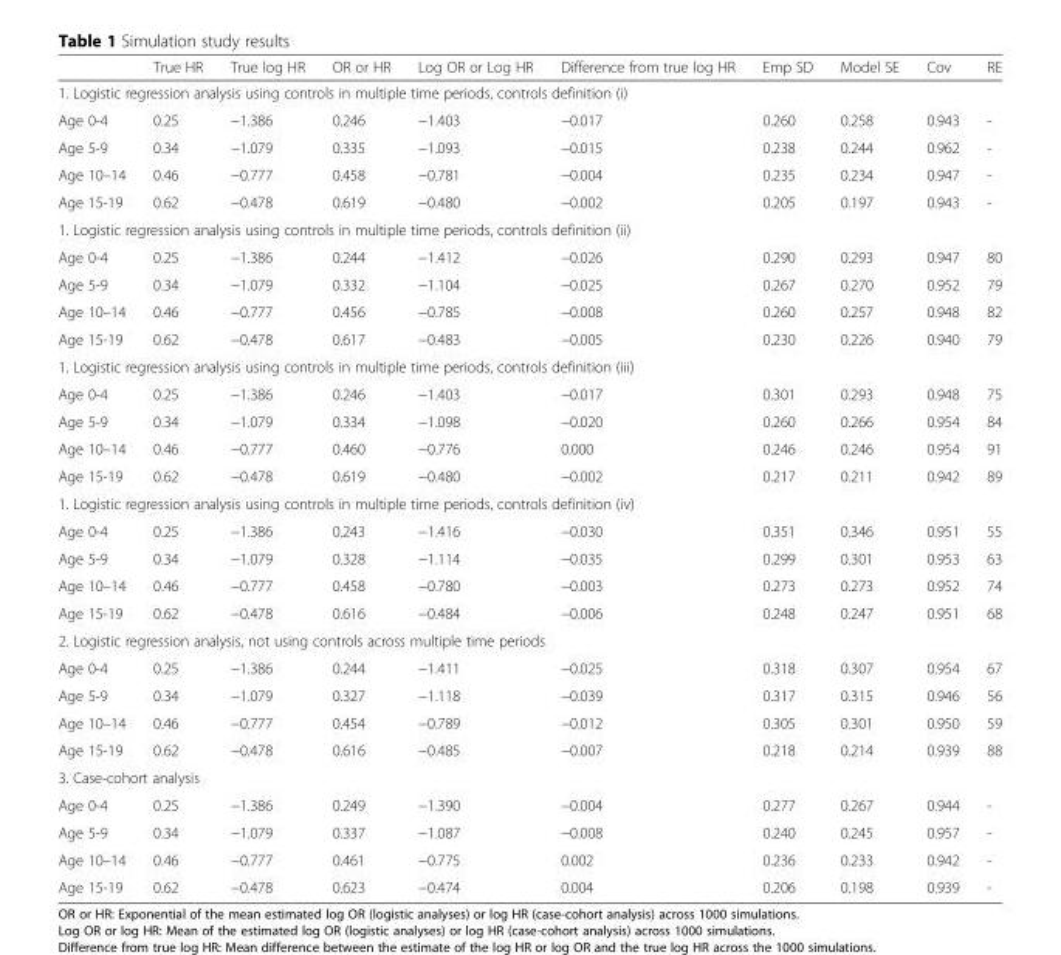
<table><thead><tr><td></td><td>True HR</td><td>True log HR</td><td>OR or HR</td><td>Log OR or Log HR</td><td>Difference from true log HR</td><td>Emp SD</td><td>Model SE</td><td>Cov</td><td>RE</td></tr></thead><tbody><tr><td colspan="10">1. Logistic regression analysis using controls in multiple time periods, controls definition (i)</td></tr><tr><td>Age 0-4</td><td>0.25</td><td>−1.386</td><td>0.246</td><td>−1.403</td><td>−0.017</td><td>0.260</td><td>0.258</td><td>0.943</td><td>-</td></tr><tr><td>Age 5-9</td><td>0.34</td><td>−1.079</td><td>0.335</td><td>−1.093</td><td>−0.015</td><td>0.238</td><td>0.244</td><td>0.962</td><td>-</td></tr><tr><td>Age 10–14</td><td>0.46</td><td>−0.777</td><td>0.458</td><td>−0.781</td><td>−0.004</td><td>0.235</td><td>0.234</td><td>0.947</td><td>-</td></tr><tr><td>Age 15-19</td><td>0.62</td><td>−0.478</td><td>0.619</td><td>−0.480</td><td>−0.002</td><td>0.205</td><td>0.197</td><td>0.943</td><td>-</td></tr><tr><td colspan="10">1. Logistic regression analysis using controls in multiple time periods, controls definition (ii)</td></tr><tr><td>Age 0-4</td><td>0.25</td><td>−1.386</td><td>0.244</td><td>−1.412</td><td>−0.026</td><td>0.290</td><td>0.293</td><td>0.947</td><td>80</td></tr><tr><td>Age 5-9</td><td>0.34</td><td>−1.079</td><td>0.332</td><td>−1.104</td><td>−0.025</td><td>0.267</td><td>0.270</td><td>0.952</td><td>79</td></tr><tr><td>Age 10–14</td><td>0.46</td><td>−0.777</td><td>0.456</td><td>−0.785</td><td>−0.008</td><td>0.260</td><td>0.257</td><td>0.948</td><td>82</td></tr><tr><td>Age 15-19</td><td>0.62</td><td>−0.478</td><td>0.617</td><td>−0.483</td><td>−0.005</td><td>0.230</td><td>0.226</td><td>0.940</td><td>79</td></tr><tr><td colspan="10">1. Logistic regression analysis using controls in multiple time periods, controls definition (iii)</td></tr><tr><td>Age 0-4</td><td>0.25</td><td>−1.386</td><td>0.246</td><td>−1.403</td><td>−0.017</td><td>0.301</td><td>0.293</td><td>0.948</td><td>75</td></tr><tr><td>Age 5-9</td><td>0.34</td><td>−1.079</td><td>0.334</td><td>−1.098</td><td>−0.020</td><td>0.260</td><td>0.266</td><td>0.954</td><td>84</td></tr><tr><td>Age 10–14</td><td>0.46</td><td>−0.777</td><td>0.460</td><td>−0.776</td><td>0.000</td><td>0.246</td><td>0.246</td><td>0.954</td><td>91</td></tr><tr><td>Age 15-19</td><td>0.62</td><td>−0.478</td><td>0.619</td><td>−0.480</td><td>−0.002</td><td>0.217</td><td>0.211</td><td>0.942</td><td>89</td></tr><tr><td colspan="10">1. Logistic regression analysis using controls in multiple time periods, controls definition (iv)</td></tr><tr><td>Age 0-4</td><td>0.25</td><td>−1.386</td><td>0.243</td><td>−1.416</td><td>−0.030</td><td>0.351</td><td>0.346</td><td>0.951</td><td>55</td></tr><tr><td>Age 5-9</td><td>0.34</td><td>−1.079</td><td>0.328</td><td>−1.114</td><td>−0.035</td><td>0.299</td><td>0.301</td><td>0.953</td><td>63</td></tr><tr><td>Age 10–14</td><td>0.46</td><td>−0.777</td><td>0.458</td><td>−0.780</td><td>−0.003</td><td>0.273</td><td>0.273</td><td>0.952</td><td>74</td></tr><tr><td>Age 15-19</td><td>0.62</td><td>−0.478</td><td>0.616</td><td>−0.484</td><td>−0.006</td><td>0.248</td><td>0.247</td><td>0.951</td><td>68</td></tr><tr><td colspan="10">2. Logistic regression analysis, not using controls across multiple time periods</td></tr><tr><td>Age 0-4</td><td>0.25</td><td>−1.386</td><td>0.244</td><td>−1.411</td><td>−0.025</td><td>0.318</td><td>0.307</td><td>0.954</td><td>67</td></tr><tr><td>Age 5-9</td><td>0.34</td><td>−1.079</td><td>0.327</td><td>−1.118</td><td>−0.039</td><td>0.317</td><td>0.315</td><td>0.946</td><td>56</td></tr><tr><td>Age 10–14</td><td>0.46</td><td>−0.777</td><td>0.454</td><td>−0.789</td><td>−0.012</td><td>0.305</td><td>0.301</td><td>0.950</td><td>59</td></tr><tr><td>Age 15-19</td><td>0.62</td><td>−0.478</td><td>0.616</td><td>−0.485</td><td>−0.007</td><td>0.218</td><td>0.214</td><td>0.939</td><td>88</td></tr><tr><td colspan="10">3. Case-cohort analysis</td></tr><tr><td>Age 0-4</td><td>0.25</td><td>−1.386</td><td>0.249</td><td>−1.390</td><td>−0.004</td><td>0.277</td><td>0.267</td><td>0.944</td><td>-</td></tr><tr><td>Age 5-9</td><td>0.34</td><td>−1.079</td><td>0.337</td><td>−1.087</td><td>−0.008</td><td>0.240</td><td>0.245</td><td>0.957</td><td>-</td></tr><tr><td>Age 10–14</td><td>0.46</td><td>−0.777</td><td>0.461</td><td>−0.775</td><td>0.002</td><td>0.236</td><td>0.233</td><td>0.942</td><td>-</td></tr><tr><td>Age 15-19</td><td>0.62</td><td>−0.478</td><td>0.623</td><td>−0.474</td><td>0.004</td><td>0.206</td><td>0.198</td><td>0.939</td><td>-</td></tr></tbody></table>